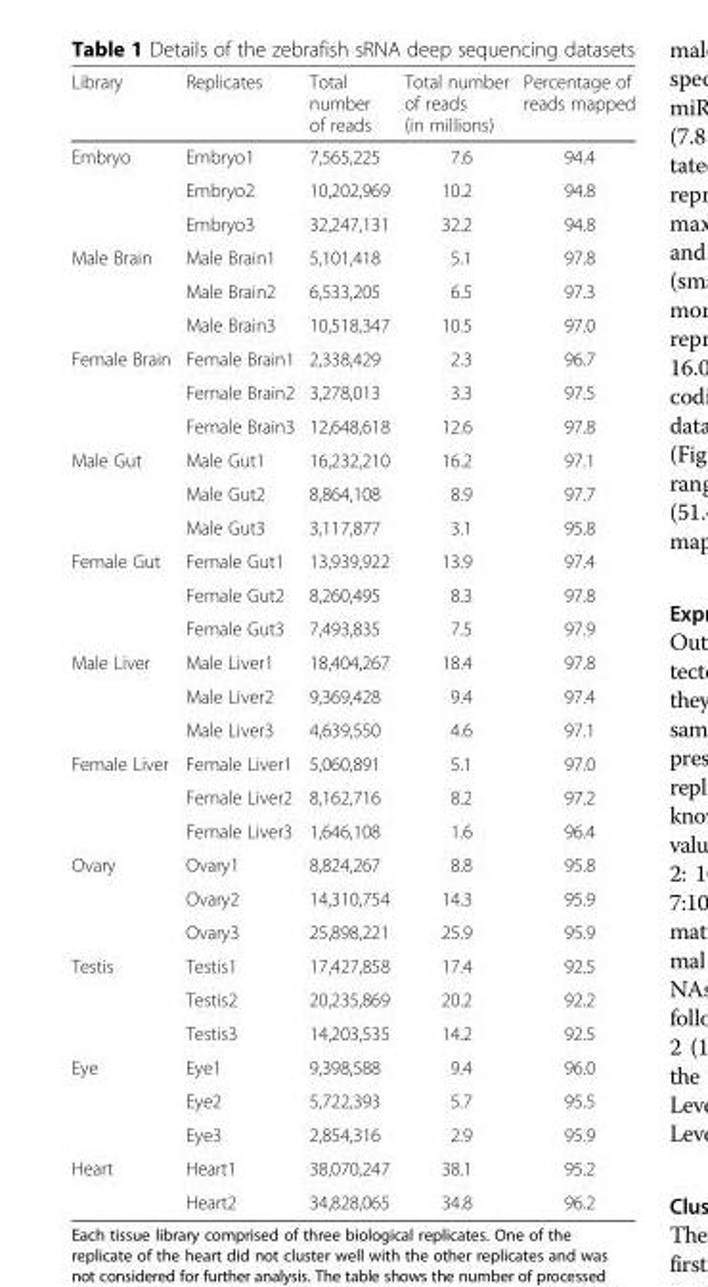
<table><thead><tr><td>Library</td><td>Replicates</td><td>Total number of reads</td><td>Total number of reads (in millions)</td><td>Percentage of reads mapped</td></tr></thead><tbody><tr><td rowspan="3">Embryo</td><td>Embryo1</td><td>7,565,225</td><td>7.6</td><td>94.4</td></tr><tr><td>Embryo2</td><td>10,202,969</td><td>10.2</td><td>94.8</td></tr><tr><td>Embryo3</td><td>32,247,131</td><td>32.2</td><td>94.8</td></tr><tr><td rowspan="3">Male Brain</td><td>Male Brain1</td><td>5,101,418</td><td>5.1</td><td>97.8</td></tr><tr><td>Male Brain2</td><td>6,533,205</td><td>6.5</td><td>97.3</td></tr><tr><td>Male Brain3</td><td>10,518,347</td><td>10.5</td><td>97.0</td></tr><tr><td rowspan="3">Female Brain</td><td>Female Brain1</td><td>2,338,429</td><td>2.3</td><td>96.7</td></tr><tr><td>Female Brain2</td><td>3,278,013</td><td>3.3</td><td>97.5</td></tr><tr><td>Female Brain3</td><td>12,648,618</td><td>12.6</td><td>97.8</td></tr><tr><td rowspan="3">Male Gut</td><td>Male Gut1</td><td>16,232,210</td><td>16.2</td><td>97.1</td></tr><tr><td>Male Gut2</td><td>8,864,108</td><td>8.9</td><td>97.7</td></tr><tr><td>Male Gut3</td><td>3,117,877</td><td>3.1</td><td>95.8</td></tr><tr><td rowspan="3">Female Gut</td><td>Female Gut1</td><td>13,939,922</td><td>13.9</td><td>97.4</td></tr><tr><td>Female Gut2</td><td>8,260,495</td><td>8.3</td><td>97.8</td></tr><tr><td>Female Gut3</td><td>7,493,835</td><td>7.5</td><td>97.9</td></tr><tr><td rowspan="3">Male Liver</td><td>Male Liver1</td><td>18,404,267</td><td>18.4</td><td>97.8</td></tr><tr><td>Male Liver2</td><td>9,369,428</td><td>9.4</td><td>97.4</td></tr><tr><td>Male Liver3</td><td>4,639,550</td><td>4.6</td><td>97.1</td></tr><tr><td rowspan="3">Female Liver</td><td>Female Liver1</td><td>5,060,891</td><td>5.1</td><td>97.0</td></tr><tr><td>Female Liver2</td><td>8,162,716</td><td>8.2</td><td>97.2</td></tr><tr><td>Female Liver3</td><td>1,646,108</td><td>1.6</td><td>96.4</td></tr><tr><td rowspan="3">Ovary</td><td>Ovary1</td><td>8,824,267</td><td>8.8</td><td>95.8</td></tr><tr><td>Ovary2</td><td>14,310,754</td><td>14.3</td><td>95.9</td></tr><tr><td>Ovary3</td><td>25,898,221</td><td>25.9</td><td>95.9</td></tr><tr><td rowspan="3">Testis</td><td>Testis1</td><td>17,427,858</td><td>17.4</td><td>92.5</td></tr><tr><td>Testis2</td><td>20,235,869</td><td>20.2</td><td>92.2</td></tr><tr><td>Testis3</td><td>14,203,535</td><td>14.2</td><td>92.5</td></tr><tr><td rowspan="3">Eye</td><td>Eye1</td><td>9,398,588</td><td>9.4</td><td>96.0</td></tr><tr><td>Eye2</td><td>5,722,393</td><td>5.7</td><td>95.5</td></tr><tr><td>Eye3</td><td>2,854,316</td><td>2.9</td><td>95.9</td></tr><tr><td rowspan="2">Heart</td><td>Heart1</td><td>38,070,247</td><td>38.1</td><td>95.2</td></tr><tr><td>Heart2</td><td>34,828,065</td><td>34.8</td><td>96.2</td></tr></tbody></table>